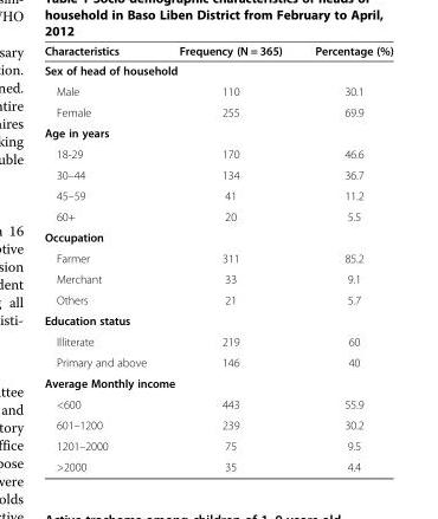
<table><thead><tr><td>Characteristics</td><td>Frequency (N = 365)</td><td>Percentage (%)</td></tr></thead><tbody><tr><td colspan="3">Sex of head of household</td></tr><tr><td>Male</td><td>110</td><td>30.1</td></tr><tr><td>Female</td><td>255</td><td>69.9</td></tr><tr><td colspan="3">Age in years</td></tr><tr><td>18-29</td><td>170</td><td>46.6</td></tr><tr><td>30–44</td><td>134</td><td>36.7</td></tr><tr><td>45–59</td><td>41</td><td>11.2</td></tr><tr><td>60+</td><td>20</td><td>5.5</td></tr><tr><td colspan="3">Occupation</td></tr><tr><td>Farmer</td><td>311</td><td>85.2</td></tr><tr><td>Merchant</td><td>33</td><td>9.1</td></tr><tr><td>Others</td><td>21</td><td>5.7</td></tr><tr><td colspan="3">Education status</td></tr><tr><td>Illiterate</td><td>219</td><td>60</td></tr><tr><td>Primary and above</td><td>146</td><td>40</td></tr><tr><td colspan="3">Average Monthly income</td></tr><tr><td>&lt;600</td><td>443</td><td>55.9</td></tr><tr><td>601–1200</td><td>239</td><td>30.2</td></tr><tr><td>1201–2000</td><td>75</td><td>9.5</td></tr><tr><td>&gt;2000</td><td>35</td><td>4.4</td></tr></tbody></table>